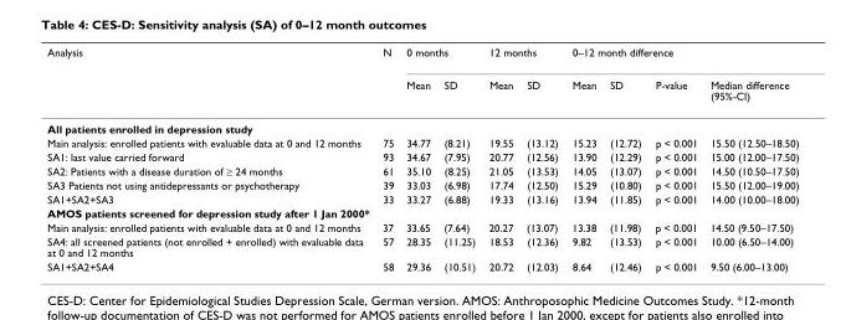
<table><thead><tr><td rowspan="2">Analysis</td><td rowspan="2">N</td><td colspan="2">0 months</td><td colspan="2">12 months</td><td colspan="4">0–12 month difference</td></tr><tr><td>Mean</td><td>SD</td><td>Mean</td><td>SD</td><td>Mean</td><td>SD</td><td>P-value</td><td>Median difference (95%-CI)</td></tr></thead><tbody><tr><td colspan="10">All patients enrolled in depression study</td></tr><tr><td>Main analysis: enrolled patients with evaluable data at 0 and 12 months</td><td>75</td><td>34.77</td><td>(8.21)</td><td>19.55</td><td>(13.12)</td><td>15.23</td><td>(12.72)</td><td>p &lt; 0.001</td><td>15.50 (12.50–18.50)</td></tr><tr><td>SA1: last value carried forward</td><td>93</td><td>34.67</td><td>(7.95)</td><td>20.77</td><td>(12.56)</td><td>13.90</td><td>(12.29)</td><td>p &lt; 0.001</td><td>15.00 (12.00–17.50)</td></tr><tr><td>SA2: Patients with a disease duration of ≥ 24 months</td><td>61</td><td>35.10</td><td>(8.25)</td><td>21.05</td><td>(13.53)</td><td>14.05</td><td>(13.07)</td><td>p &lt; 0.001</td><td>14.50 (10.50–17.50)</td></tr><tr><td>SA3 Patients not using antidepressants or psychotherapy</td><td>39</td><td>33.03</td><td>(6.98)</td><td>17.74</td><td>(12.50)</td><td>15.29</td><td>(10.80)</td><td>p &lt; 0.001</td><td>15.50 (12.00–19.00)</td></tr><tr><td>SA1+SA2+SA3</td><td>33</td><td>33.27</td><td>(6.88)</td><td>19.33</td><td>(13.16)</td><td>13.94</td><td>(11.85)</td><td>p &lt; 0.001</td><td>14.00 (10.00–18.00)</td></tr><tr><td colspan="10">AMOS patients screened for depression study after 1 Jan 2000*</td></tr><tr><td>Main analysis: enrolled patients with evaluable data at 0 and 12 months</td><td>37</td><td>33.65</td><td>(7.64)</td><td>20.27</td><td>(13.07)</td><td>13.38</td><td>(11.98)</td><td>p &lt; 0.001</td><td>14.50 (9.50–17.50)</td></tr><tr><td>SA4: all screened patients (not enrolled + enrolled) with evaluable data at 0 and 12 months</td><td>57</td><td>28.35</td><td>(11.25)</td><td>18.53</td><td>(12.36)</td><td>9.82</td><td>(13.53)</td><td>p &lt; 0.001</td><td>10.00 (6.50–14.00)</td></tr><tr><td>SA1+SA2+SA4</td><td>58</td><td>29.36</td><td>(10.51)</td><td>20.72</td><td>(12.03)</td><td>8.64</td><td>(12.46)</td><td>p &lt; 0.001</td><td>9.50 (6.00–13.00)</td></tr></tbody></table>